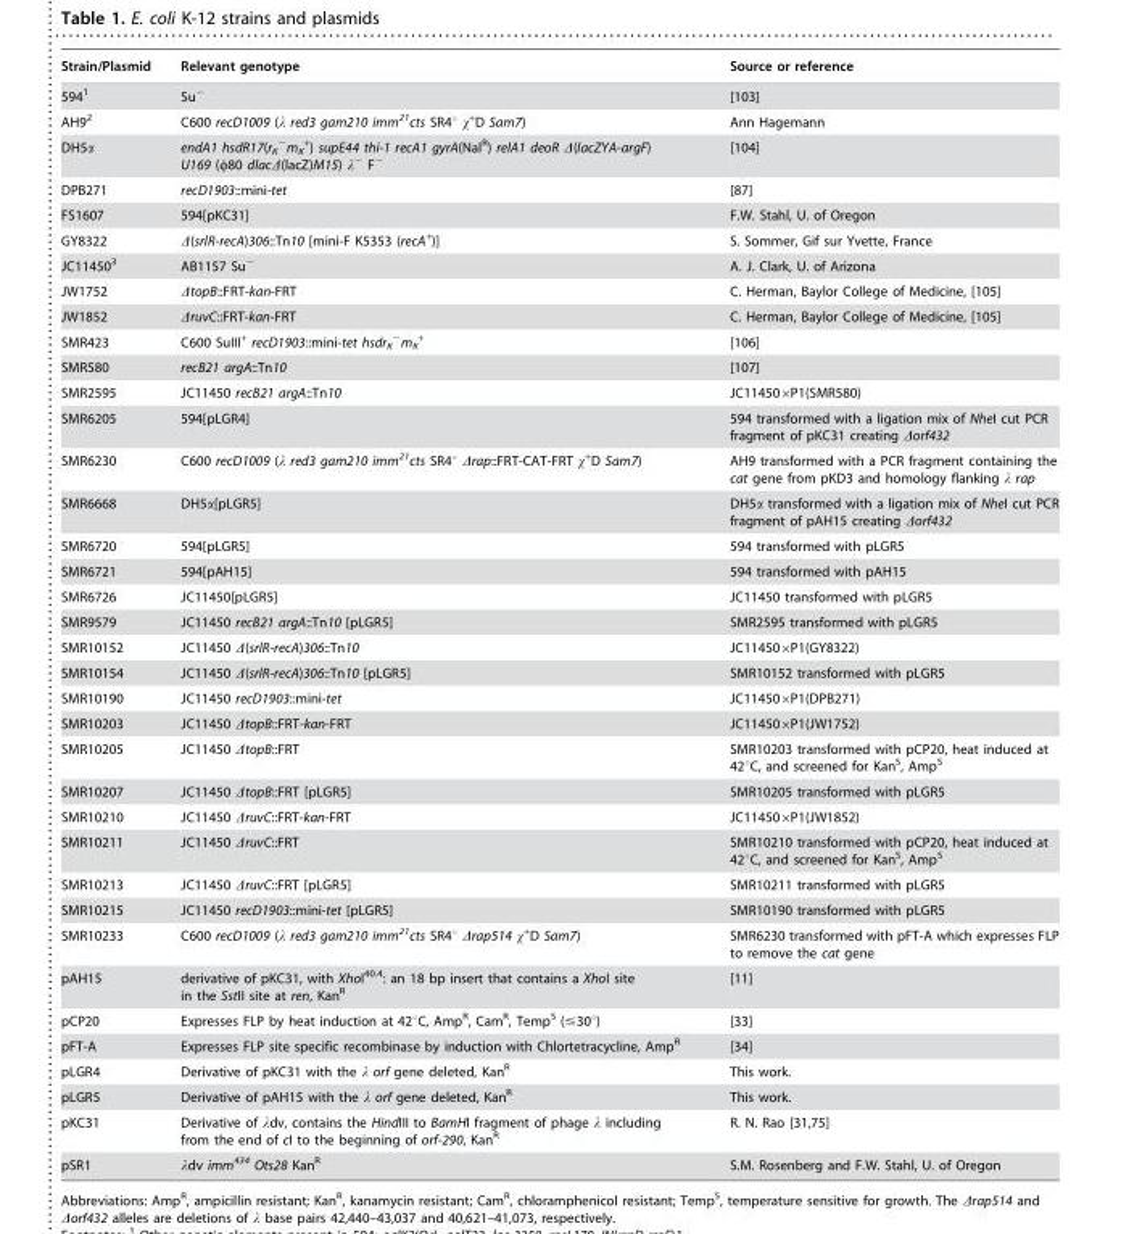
<table><thead><tr><td>Strain/Plasmid</td><td>Relevant genotype</td><td>Source or reference</td></tr></thead><tbody><tr><td>594<sup>1</sup></td><td>Su<sup>−</sup></td><td>[103]</td></tr><tr><td>AH9<sup>2</sup></td><td>C600 recD1009 (λ red3 gam210 imm<sup>21</sup>cts SR4° χ<sup>+</sup>D Sam7)</td><td>Ann Hagemann</td></tr><tr><td>DH5α</td><td>endA1 hsdR17(r<sub>K</sub> <sup>−</sup>m<sub>K</sub> <sup>+</sup>) supE44 thi-1 recA1 gyrA(Nal<sup>R</sup>) relA1 deoR Δ(lacZYA-argF) U169 (φ80 dlacΔ(lacZ)M15) λ<sup>−</sup> F<sup>−</sup></td><td>[104]</td></tr><tr><td>DPB271</td><td>recD1903::mini-tet</td><td>[87]</td></tr><tr><td>FS1607</td><td>594[pKC31]</td><td>F.W. Stahl, U. of Oregon</td></tr><tr><td>GY8322</td><td>Δ(srlR-recA)306::Tn10 [mini-F K5353 (recA<sup>+</sup>)]</td><td>S. Sommer, Gif sur Yvette, France</td></tr><tr><td>JC11450<sup>3</sup></td><td>AB1157 Su<sup>−</sup></td><td>A. J. Clark, U. of Arizona</td></tr><tr><td>JW1752</td><td>ΔtopB::FRT-kan-FRT</td><td>C. Herman, Baylor College of Medicine, [105]</td></tr><tr><td>JW1852</td><td>ΔruvC::FRT-kan-FRT</td><td>C. Herman, Baylor College of Medicine, [105]</td></tr><tr><td>SMR423</td><td>C600 SuIII<sup>+</sup> recD1903::mini-tet hsdr<sub>K</sub> <sup>−</sup>m<sub>K</sub> <sup>+</sup></td><td>[106]</td></tr><tr><td>SMR580</td><td>recB21 argA::Tn10</td><td>[107]</td></tr><tr><td>SMR2595</td><td>JC11450 recB21 argA::Tn10</td><td>JC11450×P1(SMR580)</td></tr><tr><td>SMR6205</td><td>594[pLGR4]</td><td>594 transformed with a ligation mix of NheI cut PCR fragment of pKC31 creating Δorf432</td></tr><tr><td>SMR6230</td><td>C600 recD1009 (λ red3 gam210 imm<sup>21</sup>cts SR4° Δrap::FRT-CAT-FRT χ<sup>+</sup>D Sam7)</td><td>AH9 transformed with a PCR fragment containing the cat gene from pKD3 and homology flanking λ rap</td></tr><tr><td>SMR6668</td><td>DH5α[pLGR5]</td><td>DH5α transformed with a ligation mix of NheI cut PCR fragment of pAH15 creating Δorf432</td></tr><tr><td>SMR6720</td><td>594[pLGR5]</td><td>594 transformed with pLGR5</td></tr><tr><td>SMR6721</td><td>594[pAH15]</td><td>594 transformed with pAH15</td></tr><tr><td>SMR6726</td><td>JC11450[pLGR5]</td><td>JC11450 transformed with pLGR5</td></tr><tr><td>SMR9579</td><td>JC11450 recB21 argA::Tn10 [pLGR5]</td><td>SMR2595 transformed with pLGR5</td></tr><tr><td>SMR10152</td><td>JC11450 Δ(srlR-recA)306::Tn10</td><td>JC11450×P1(GY8322)</td></tr><tr><td>SMR10154</td><td>JC11450 Δ(srlR-recA)306::Tn10 [pLGR5]</td><td>SMR10152 transformed with pLGR5</td></tr><tr><td>SMR10190</td><td>JC11450 recD1903::mini-tet</td><td>JC11450×P1(DPB271)</td></tr><tr><td>SMR10203</td><td>JC11450 ΔtopB::FRT-kan-FRT</td><td>JC11450×P1(JW1752)</td></tr><tr><td>SMR10205</td><td>JC11450 ΔtopB::FRT</td><td>SMR10203 transformed with pCP20, heat induced at 42°C, and screened for Kan<sup>S</sup>, Amp<sup>S</sup></td></tr><tr><td>SMR10207</td><td>JC11450 ΔtopB::FRT [pLGR5]</td><td>SMR10205 transformed with pLGR5</td></tr><tr><td>SMR10210</td><td>JC11450 ΔruvC::FRT-kan-FRT</td><td>JC11450×P1(JW1852)</td></tr><tr><td>SMR10211</td><td>JC11450 ΔruvC::FRT</td><td>SMR10210 transformed with pCP20, heat induced at 42°C, and screened for Kan<sup>S</sup>, Amp<sup>S</sup></td></tr><tr><td>SMR10213</td><td>JC11450 ΔruvC::FRT [pLGR5]</td><td>SMR10211 transformed with pLGR5</td></tr><tr><td>SMR10215</td><td>JC11450 recD1903::mini-tet [pLGR5]</td><td>SMR10190 transformed with pLGR5</td></tr><tr><td>SMR10233</td><td>C600 recD1009 (λ red3 gam210 imm<sup>21</sup>cts SR4° Δrap514 χ<sup>+</sup>D Sam7)</td><td>SMR6230 transformed with pFT-A which expresses FLP to remove the cat gene</td></tr><tr><td>pAH15</td><td>derivative of pKC31, with XhoI<sup>40.4</sup>: an 18 bp insert that contains a XhoI site in the SstII site at ren, Kan<sup>R</sup></td><td>[11]</td></tr><tr><td>pCP20</td><td>Expresses FLP by heat induction at 42°C, Amp<sup>R</sup>, Cam<sup>R</sup>, Temp<sup>S</sup> (≤30°)</td><td>[33]</td></tr><tr><td>pFT-A</td><td>Expresses FLP site specific recombinase by induction with Chlortetracycline, Amp<sup>R</sup></td><td>[34]</td></tr><tr><td>pLGR4</td><td>Derivative of pKC31 with the λ orf gene deleted, Kan<sup>R</sup></td><td>This work.</td></tr><tr><td>pLGR5</td><td>Derivative of pAH15 with the λ orf gene deleted, Kan<sup>R</sup></td><td>This work.</td></tr><tr><td>pKC31</td><td>Derivative of λdv, contains the HindIII to BamHI fragment of phage λ including from the end of cI to the beginning of orf-290, Kan<sup>R</sup></td><td>R. N. Rao [31,75]</td></tr><tr><td>pSR1</td><td>λdv imm<sup>434</sup> Ots28 Kan<sup>R</sup></td><td>S.M. Rosenberg and F.W. Stahl, U. of Oregon</td></tr></tbody></table>